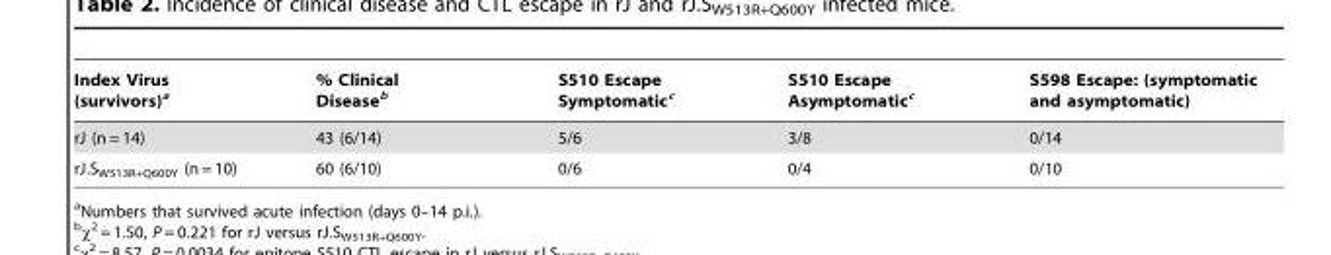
<table><thead><tr><td>Index Virus (survivors)<sup>a</sup></td><td>% Clinical Disease<sup>b</sup></td><td>S510 Escape Symptomatic<sup>c</sup></td><td>S510 Escape Asymptomatic<sup>c</sup></td><td>S598 Escape: (symptomatic and asymptomatic)</td></tr></thead><tbody><tr><td>rJ (n = 14)</td><td>43 (6/14)</td><td>5/6</td><td>3/8</td><td>0/14</td></tr><tr><td>rJ.S<sub>W513R+Q600Y</sub> (n = 10)</td><td>60 (6/10)</td><td>0/6</td><td>0/4</td><td>0/10</td></tr></tbody></table>